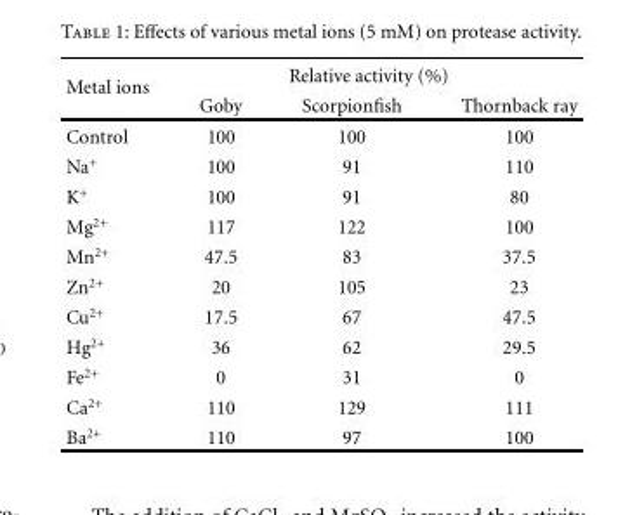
<table><thead><tr><td rowspan="2">Metal ions</td><td colspan="3">Relative activity (%)</td></tr><tr><td>Goby</td><td>Scorpionfish</td><td>Thornback ray</td></tr></thead><tbody><tr><td>Control</td><td>100</td><td>100</td><td>100</td></tr><tr><td>Na<sup>+</sup></td><td>100</td><td>91</td><td>110</td></tr><tr><td>K<sup>+</sup></td><td>100</td><td>91</td><td>80</td></tr><tr><td>Mg<sup>2+</sup></td><td>117</td><td>122</td><td>100</td></tr><tr><td>Mn<sup>2+</sup></td><td>47.5</td><td>83</td><td>37.5</td></tr><tr><td>Zn<sup>2+</sup></td><td>20</td><td>105</td><td>23</td></tr><tr><td>Cu<sup>2+</sup></td><td>17.5</td><td>67</td><td>47.5</td></tr><tr><td>Hg<sup>2+</sup></td><td>36</td><td>62</td><td>29.5</td></tr><tr><td>Fe<sup>2+</sup></td><td>0</td><td>31</td><td>0</td></tr><tr><td>Ca<sup>2+</sup></td><td>110</td><td>129</td><td>111</td></tr><tr><td>Ba<sup>2+</sup></td><td>110</td><td>97</td><td>100</td></tr></tbody></table>